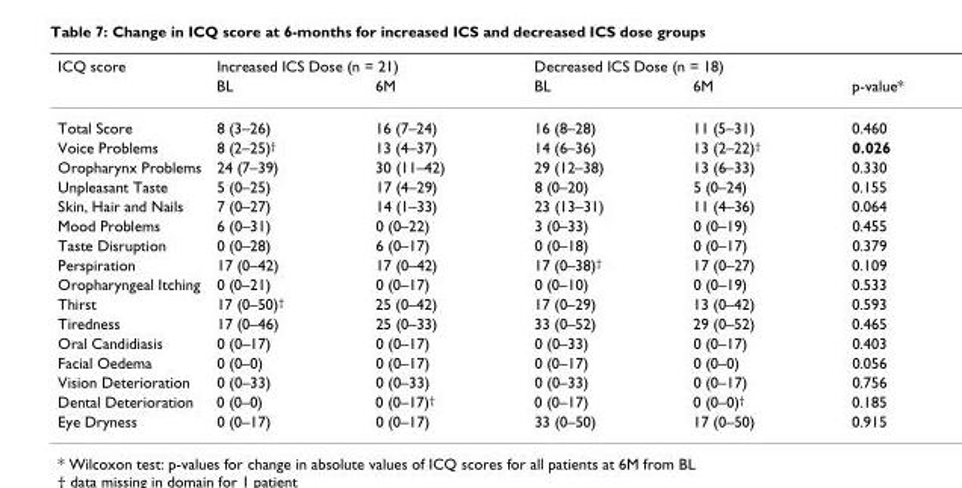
<table><thead><tr><td rowspan="2">ICQ score</td><td colspan="2">Increased ICS Dose (n = 21)</td><td colspan="2">Decreased ICS Dose (n = 18)</td><td rowspan="2">p-value*</td></tr><tr><td>BL</td><td>6M</td><td>BL</td><td>6M</td></tr></thead><tbody><tr><td>Total Score</td><td>8 (3–26)</td><td>16 (7–24)</td><td>16 (8–28)</td><td>11 (5–31)</td><td>0.460</td></tr><tr><td>Voice Problems</td><td>8 (2–25)<sup>†</sup></td><td>13 (4–37)</td><td>14 (6–36)</td><td>13 (2–22)<sup>†</sup></td><td>0.026</td></tr><tr><td>Oropharynx Problems</td><td>24 (7–39)</td><td>30 (11–42)</td><td>29 (12–38)</td><td>13 (6–33)</td><td>0.330</td></tr><tr><td>Unpleasant Taste</td><td>5 (0–25)</td><td>17 (4–29)</td><td>8 (0–20)</td><td>5 (0–24)</td><td>0.155</td></tr><tr><td>Skin, Hair and Nails</td><td>7 (0–27)</td><td>14 (1–33)</td><td>23 (13–31)</td><td>11 (4–36)</td><td>0.064</td></tr><tr><td>Mood Problems</td><td>6 (0–31)</td><td>0 (0–22)</td><td>3 (0–33)</td><td>0 (0–19)</td><td>0.455</td></tr><tr><td>Taste Disruption</td><td>0 (0–28)</td><td>6 (0–17)</td><td>0 (0–18)</td><td>0 (0–17)</td><td>0.379</td></tr><tr><td>Perspiration</td><td>17 (0–42)</td><td>17 (0–42)</td><td>17 (0–38)<sup>†</sup></td><td>17 (0–27)</td><td>0.109</td></tr><tr><td>Oropharyngeal Itching</td><td>0 (0–21)</td><td>0 (0–17)</td><td>0 (0–10)</td><td>0 (0–19)</td><td>0.533</td></tr><tr><td>Thirst</td><td>17 (0–50)<sup>†</sup></td><td>25 (0–42)</td><td>17 (0–29)</td><td>13 (0–42)</td><td>0.593</td></tr><tr><td>Tiredness</td><td>17 (0–46)</td><td>25 (0–33)</td><td>33 (0–52)</td><td>29 (0–52)</td><td>0.465</td></tr><tr><td>Oral Candidiasis</td><td>0 (0–17)</td><td>0 (0–17)</td><td>0 (0–33)</td><td>0 (0–17)</td><td>0.403</td></tr><tr><td>Facial Oedema</td><td>0 (0–0)</td><td>0 (0–17)</td><td>0 (0–17)</td><td>0 (0–0)</td><td>0.056</td></tr><tr><td>Vision Deterioration</td><td>0 (0–33)</td><td>0 (0–33)</td><td>0 (0–33)</td><td>0 (0–17)</td><td>0.756</td></tr><tr><td>Dental Deterioration</td><td>0 (0–0)</td><td>0 (0–17)<sup>†</sup></td><td>0 (0–17)</td><td>0 (0–0)<sup>†</sup></td><td>0.185</td></tr><tr><td>Eye Dryness</td><td>0 (0–17)</td><td>0 (0–17)</td><td>33 (0–50)</td><td>17 (0–50)</td><td>0.915</td></tr></tbody></table>